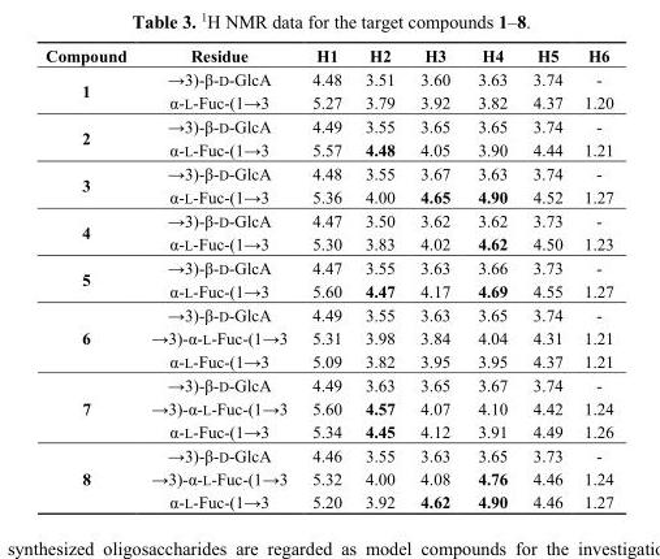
<table><thead><tr><td>Compound</td><td>Residue</td><td>H1</td><td>H2</td><td>H3</td><td>H4</td><td>H5</td><td>H6</td></tr></thead><tbody><tr><td rowspan="2">1</td><td>→3)-β-D-GlcA</td><td>4.48</td><td>3.51</td><td>3.60</td><td>3.63</td><td>3.74</td><td>-</td></tr><tr><td>α-L-Fuc-(1→3</td><td>5.27</td><td>3.79</td><td>3.92</td><td>3.82</td><td>4.37</td><td>1.20</td></tr><tr><td rowspan="2">2</td><td>→3)-β-D-GlcA</td><td>4.49</td><td>3.55</td><td>3.65</td><td>3.65</td><td>3.74</td><td>-</td></tr><tr><td>α-L-Fuc-(1→3</td><td>5.57</td><td>4.48</td><td>4.05</td><td>3.90</td><td>4.44</td><td>1.21</td></tr><tr><td rowspan="2">3</td><td>→3)-β-D-GlcA</td><td>4.48</td><td>3.55</td><td>3.67</td><td>3.63</td><td>3.74</td><td>-</td></tr><tr><td>α-L-Fuc-(1→3</td><td>5.36</td><td>4.00</td><td>4.65</td><td>4.90</td><td>4.52</td><td>1.27</td></tr><tr><td rowspan="2">4</td><td>→3)-β-D-GlcA</td><td>4.47</td><td>3.50</td><td>3.62</td><td>3.62</td><td>3.73</td><td>-</td></tr><tr><td>α-L-Fuc-(1→3</td><td>5.30</td><td>3.83</td><td>4.02</td><td>4.62</td><td>4.50</td><td>1.23</td></tr><tr><td rowspan="2">5</td><td>→3)-β-D-GlcA</td><td>4.47</td><td>3.55</td><td>3.63</td><td>3.66</td><td>3.73</td><td>-</td></tr><tr><td>α-L-Fuc-(1→3</td><td>5.60</td><td>4.47</td><td>4.17</td><td>4.69</td><td>4.55</td><td>1.27</td></tr><tr><td rowspan="3">6</td><td>→3)-β-D-GlcA</td><td>4.49</td><td>3.55</td><td>3.63</td><td>3.65</td><td>3.74</td><td>-</td></tr><tr><td>→3)-α-L-Fuc-(1→3</td><td>5.31</td><td>3.98</td><td>3.84</td><td>4.04</td><td>4.31</td><td>1.21</td></tr><tr><td>α-L-Fuc-(1→3</td><td>5.09</td><td>3.82</td><td>3.95</td><td>3.95</td><td>4.37</td><td>1.21</td></tr><tr><td rowspan="3">7</td><td>→3)-β-D-GlcA</td><td>4.49</td><td>3.63</td><td>3.65</td><td>3.67</td><td>3.74</td><td>-</td></tr><tr><td>→3)-α-L-Fuc-(1→3</td><td>5.60</td><td>4.57</td><td>4.07</td><td>4.10</td><td>4.42</td><td>1.24</td></tr><tr><td>α-L-Fuc-(1→3</td><td>5.34</td><td>4.45</td><td>4.12</td><td>3.91</td><td>4.49</td><td>1.26</td></tr><tr><td rowspan="3">8</td><td>→3)-β-D-GlcA</td><td>4.46</td><td>3.55</td><td>3.63</td><td>3.65</td><td>3.73</td><td>-</td></tr><tr><td>→3)-α-L-Fuc-(1→3</td><td>5.32</td><td>4.00</td><td>4.08</td><td>4.76</td><td>4.46</td><td>1.24</td></tr><tr><td>α-L-Fuc-(1→3</td><td>5.20</td><td>3.92</td><td>4.62</td><td>4.90</td><td>4.46</td><td>1.27</td></tr></tbody></table>